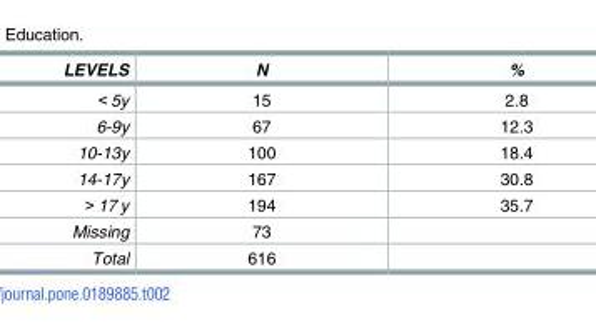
<table><thead><tr><td>LEVELS</td><td>N</td><td>%</td></tr></thead><tbody><tr><td>&lt; 5y</td><td>15</td><td>2.8</td></tr><tr><td>6-9y</td><td>67</td><td>12.3</td></tr><tr><td>10-13y</td><td>100</td><td>18.4</td></tr><tr><td>14-17y</td><td>167</td><td>30.8</td></tr><tr><td>&gt; 17 y</td><td>194</td><td>35.7</td></tr><tr><td>Missing</td><td>73</td><td></td></tr><tr><td>Total</td><td>616</td><td></td></tr></tbody></table>